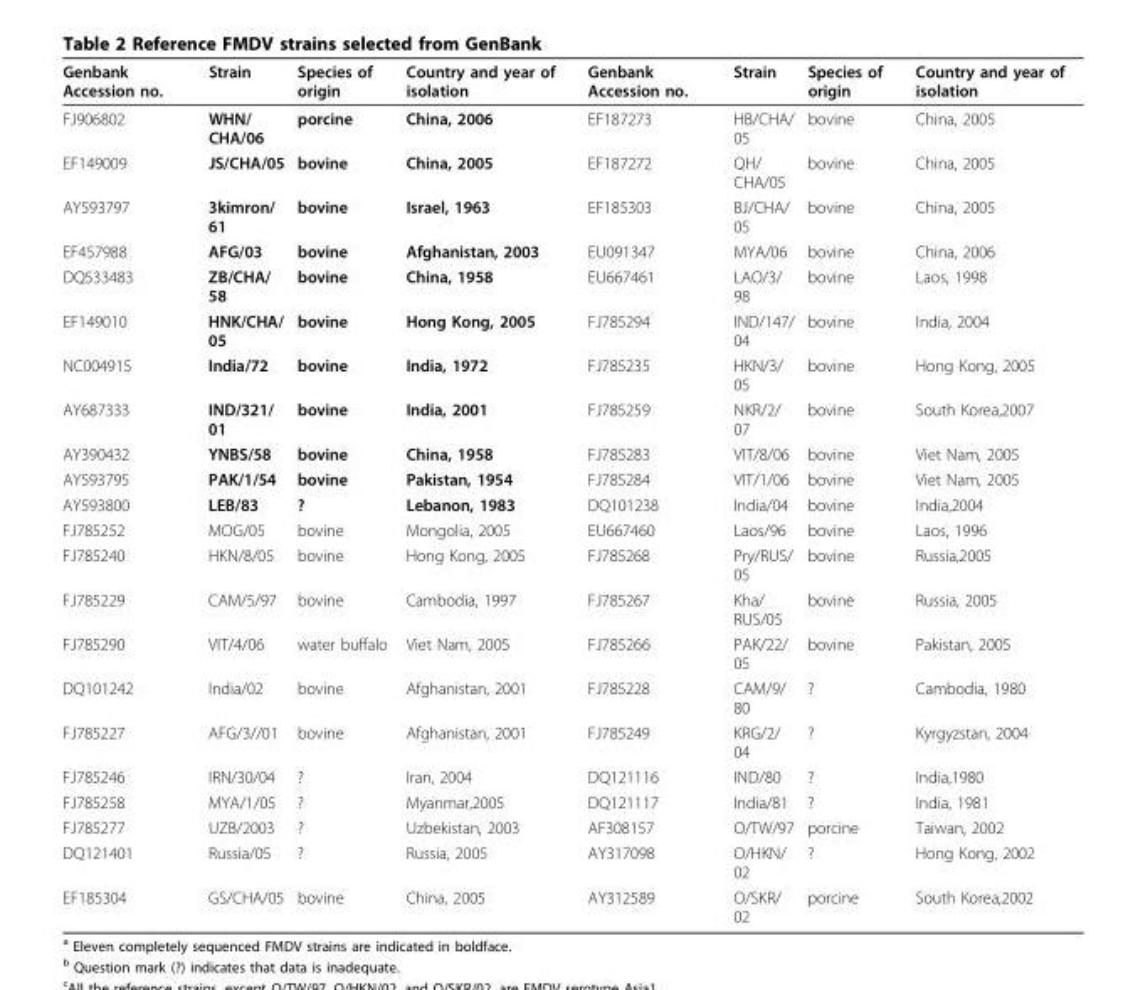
<table><thead><tr><td>Genbank Accession no.</td><td>Strain</td><td>Species of origin</td><td>Country and year of isolation</td><td>Genbank Accession no.</td><td>Strain</td><td>Species of origin</td><td>Country and year of isolation</td></tr></thead><tbody><tr><td>FJ906802</td><td>WHN/ CHA/06</td><td>porcine</td><td>China, 2006</td><td>EF187273</td><td>HB/CHA/ 05</td><td>bovine</td><td>China, 2005</td></tr><tr><td>EF149009</td><td>JS/CHA/05</td><td>bovine</td><td>China, 2005</td><td>EF187272</td><td>QH/ CHA/05</td><td>bovine</td><td>China, 2005</td></tr><tr><td>AY593797</td><td>3kimron/ 61</td><td>bovine</td><td>Israel, 1963</td><td>EF185303</td><td>BJ/CHA/ 05</td><td>bovine</td><td>China, 2005</td></tr><tr><td>EF457988</td><td>AFG/03</td><td>bovine</td><td>Afghanistan, 2003</td><td>EU091347</td><td>MYA/06</td><td>bovine</td><td>China, 2006</td></tr><tr><td>DQ533483</td><td>ZB/CHA/ 58</td><td>bovine</td><td>China, 1958</td><td>EU667461</td><td>LAO/3/ 98</td><td>bovine</td><td>Laos, 1998</td></tr><tr><td>EF149010</td><td>HNK/CHA/ 05</td><td>bovine</td><td>Hong Kong, 2005</td><td>FJ785294</td><td>IND/147/ 04</td><td>bovine</td><td>India, 2004</td></tr><tr><td>NC004915</td><td>India/72</td><td>bovine</td><td>India, 1972</td><td>FJ785235</td><td>HKN/3/ 05</td><td>bovine</td><td>Hong Kong, 2005</td></tr><tr><td>AY687333</td><td>IND/321/ 01</td><td>bovine</td><td>India, 2001</td><td>FJ785259</td><td>NKR/2/ 07</td><td>bovine</td><td>South Korea,2007</td></tr><tr><td>AY390432</td><td>YNBS/58</td><td>bovine</td><td>China, 1958</td><td>FJ785283</td><td>VIT/8/06</td><td>bovine</td><td>Viet Nam, 2005</td></tr><tr><td>AY593795</td><td>PAK/1/54</td><td>bovine</td><td>Pakistan, 1954</td><td>FJ785284</td><td>VIT/1/06</td><td>bovine</td><td>Viet Nam, 2005</td></tr><tr><td>AY593800</td><td>LEB/83</td><td>?</td><td>Lebanon, 1983</td><td>DQ101238</td><td>India/04</td><td>bovine</td><td>India,2004</td></tr><tr><td>FJ785252</td><td>MOG/05</td><td>bovine</td><td>Mongolia, 2005</td><td>EU667460</td><td>Laos/96</td><td>bovine</td><td>Laos, 1996</td></tr><tr><td>FJ785240</td><td>HKN/8/05</td><td>bovine</td><td>Hong Kong, 2005</td><td>FJ785268</td><td>Pry/RUS/ 05</td><td>bovine</td><td>Russia,2005</td></tr><tr><td>FJ785229</td><td>CAM/5/97</td><td>bovine</td><td>Cambodia, 1997</td><td>FJ785267</td><td>Kha/ RUS/05</td><td>bovine</td><td>Russia, 2005</td></tr><tr><td>FJ785290</td><td>VIT/4/06</td><td>water buffalo</td><td>Viet Nam, 2005</td><td>FJ785266</td><td>PAK/22/ 05</td><td>bovine</td><td>Pakistan, 2005</td></tr><tr><td>DQ101242</td><td>India/02</td><td>bovine</td><td>Afghanistan, 2001</td><td>FJ785228</td><td>CAM/9/ 80</td><td>?</td><td>Cambodia, 1980</td></tr><tr><td>FJ785227</td><td>AFG/3//01</td><td>bovine</td><td>Afghanistan, 2001</td><td>FJ785249</td><td>KRG/2/ 04</td><td>?</td><td>Kyrgyzstan, 2004</td></tr><tr><td>FJ785246</td><td>IRN/30/04</td><td>?</td><td>Iran, 2004</td><td>DQ121116</td><td>IND/80</td><td>?</td><td>India,1980</td></tr><tr><td>FJ785258</td><td>MYA/1/05</td><td>?</td><td>Myanmar,2005</td><td>DQ121117</td><td>India/81</td><td>?</td><td>India, 1981</td></tr><tr><td>FJ785277</td><td>UZB/2003</td><td>?</td><td>Uzbekistan, 2003</td><td>AF308157</td><td>O/TW/97</td><td>porcine</td><td>Taiwan, 2002</td></tr><tr><td>DQ121401</td><td>Russia/05</td><td>?</td><td>Russia, 2005</td><td>AY317098</td><td>O/HKN/ 02</td><td>?</td><td>Hong Kong, 2002</td></tr><tr><td>EF185304</td><td>GS/CHA/05</td><td>bovine</td><td>China, 2005</td><td>AY312589</td><td>O/SKR/ 02</td><td>porcine</td><td>South Korea,2002</td></tr></tbody></table>